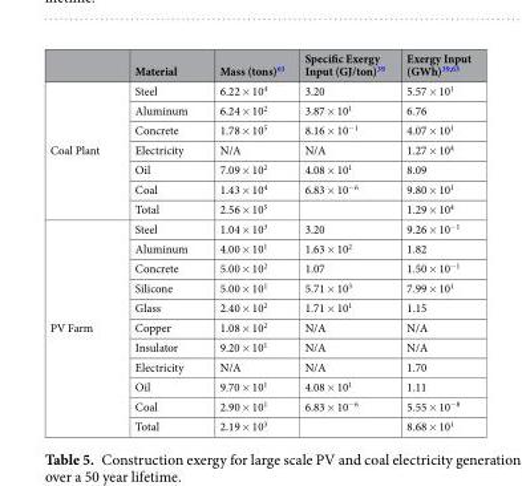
<table><thead><tr><td></td><td>Material</td><td>Mass (tons)<sup>63</sup></td><td>Specific Exergy Input (GJ/ton)<sup>39</sup></td><td>Exergy Input (GWh)<sup>39,63</sup></td></tr></thead><tbody><tr><td rowspan="7">Coal Plant</td><td>Steel</td><td>6.22 × 10<sup>4</sup></td><td>3.20</td><td>5.57 × 10<sup>1</sup></td></tr><tr><td>Aluminum</td><td>6.24 × 10<sup>2</sup></td><td>3.87 × 10<sup>1</sup></td><td>6.76</td></tr><tr><td>Concrete</td><td>1.78 × 10<sup>5</sup></td><td>8.16 × 10<sup>−1</sup></td><td>4.07 × 10<sup>1</sup></td></tr><tr><td>Electricity</td><td>N/A</td><td>N/A</td><td>1.27 × 10<sup>4</sup></td></tr><tr><td>Oil</td><td>7.09 × 10<sup>2</sup></td><td>4.08 × 10<sup>1</sup></td><td>8.09</td></tr><tr><td>Coal</td><td>1.43 × 10<sup>4</sup></td><td>6.83 × 10<sup>−6</sup></td><td>9.80 × 10<sup>1</sup></td></tr><tr><td>Total</td><td>2.56 × 10<sup>5</sup></td><td></td><td>1.29 × 10<sup>4</sup></td></tr><tr><td rowspan="11">PV Farm</td><td>Steel</td><td>1.04 × 10<sup>3</sup></td><td>3.20</td><td>9.26 × 10<sup>−1</sup></td></tr><tr><td>Aluminum</td><td>4.00 × 10<sup>1</sup></td><td>1.63 × 10<sup>2</sup></td><td>1.82</td></tr><tr><td>Concrete</td><td>5.00 × 10<sup>2</sup></td><td>1.07</td><td>1.50 × 10<sup>−1</sup></td></tr><tr><td>Silicone</td><td>5.00 × 10<sup>1</sup></td><td>5.71 × 10<sup>3</sup></td><td>7.99 × 10<sup>1</sup></td></tr><tr><td>Glass</td><td>2.40 × 10<sup>2</sup></td><td>1.71 × 10<sup>1</sup></td><td>1.15</td></tr><tr><td>Copper</td><td>1.08 × 10<sup>2</sup></td><td>N/A</td><td>N/A</td></tr><tr><td>Insulator</td><td>9.20 × 10<sup>1</sup></td><td>N/A</td><td>N/A</td></tr><tr><td>Electricity</td><td>N/A</td><td>N/A</td><td>1.70</td></tr><tr><td>Oil</td><td>9.70 × 10<sup>1</sup></td><td>4.08 × 10<sup>1</sup></td><td>1.11</td></tr><tr><td>Coal</td><td>2.90 × 10<sup>1</sup></td><td>6.83 × 10<sup>−6</sup></td><td>5.55 × 10<sup>−8</sup></td></tr><tr><td>Total</td><td>2.19 × 10<sup>3</sup></td><td></td><td>8.68 × 10<sup>1</sup></td></tr></tbody></table>